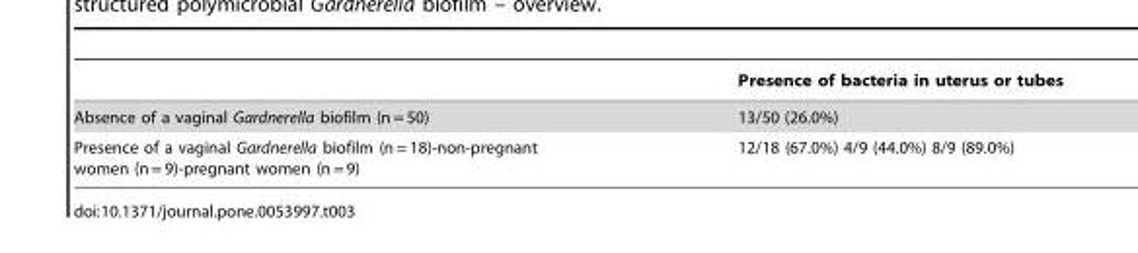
<table><thead><tr><td></td><td>Presence of bacteria in uterus or tubes</td></tr></thead><tbody><tr><td>Absence of a vaginal Gardnerella biofilm (n = 50)</td><td>13/50 (26.0%)</td></tr><tr><td>Presence of a vaginal Gardnerella biofilm (n = 18)-non-pregnant women (n = 9)-pregnant women (n = 9)</td><td>12/18 (67.0%) 4/9 (44.0%) 8/9 (89.0%)</td></tr></tbody></table>